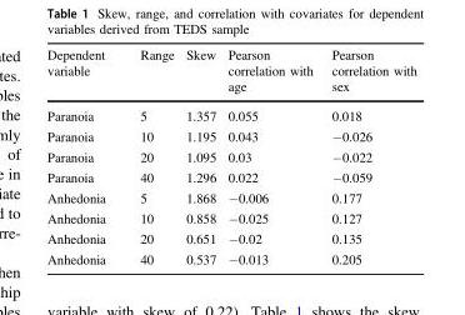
<table><thead><tr><td>Dependent variable</td><td>Range</td><td>Skew</td><td>Pearson correlation with age</td><td>Pearson correlation with sex</td></tr></thead><tbody><tr><td>Paranoia</td><td>5</td><td>1.357</td><td>0.055</td><td>0.018</td></tr><tr><td>Paranoia</td><td>10</td><td>1.195</td><td>0.043</td><td>−0.026</td></tr><tr><td>Paranoia</td><td>20</td><td>1.095</td><td>0.03</td><td>−0.022</td></tr><tr><td>Paranoia</td><td>40</td><td>1.296</td><td>0.022</td><td>−0.059</td></tr><tr><td>Anhedonia</td><td>5</td><td>1.868</td><td>−0.006</td><td>0.177</td></tr><tr><td>Anhedonia</td><td>10</td><td>0.858</td><td>−0.025</td><td>0.127</td></tr><tr><td>Anhedonia</td><td>20</td><td>0.651</td><td>−0.02</td><td>0.135</td></tr><tr><td>Anhedonia</td><td>40</td><td>0.537</td><td>−0.013</td><td>0.205</td></tr></tbody></table>